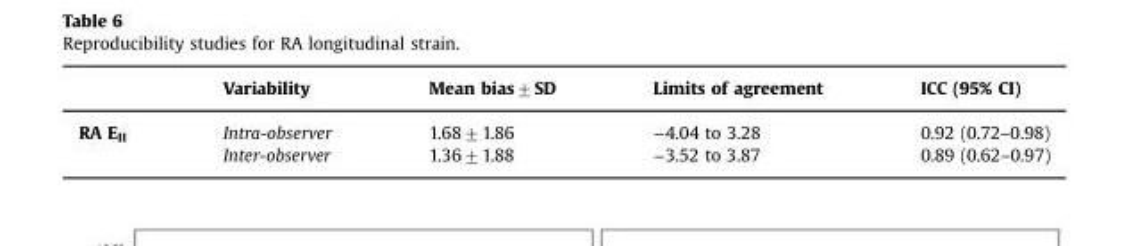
<table><thead><tr><td></td><td>Variability</td><td>Mean bias±SD</td><td>Limits of agreement</td><td>ICC (95% CI)</td></tr></thead><tbody><tr><td rowspan="2">RA E<sub>ll</sub></td><td>Intra-observer</td><td>1.68±1.86</td><td>−4.04 to 3.28</td><td>0.92 (0.72–0.98)</td></tr><tr><td>Inter-observer</td><td>1.36±1.88</td><td>−3.52 to 3.87</td><td>0.89 (0.62–0.97)</td></tr></tbody></table>